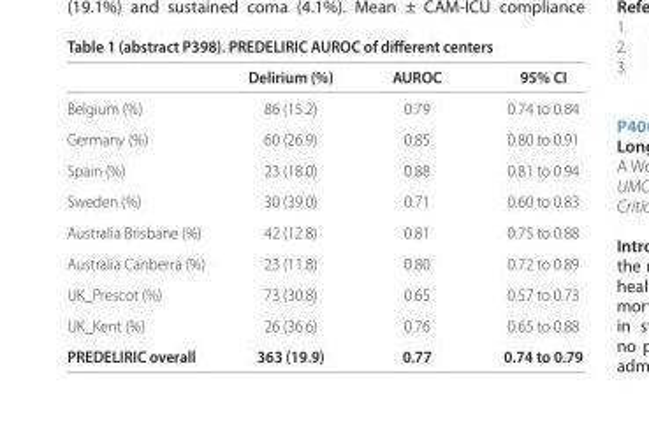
<table><thead><tr><td></td><td>Delirium (%)</td><td>AUROC</td><td>95% CI</td></tr></thead><tbody><tr><td>Belgium (%)</td><td>86 (15.2)</td><td>0.79</td><td>0.74 to 0.84</td></tr><tr><td>Germany (%)</td><td>60 (26.9)</td><td>0.85</td><td>0.80 to 0.91</td></tr><tr><td>Spain (%)</td><td>23 (18.0)</td><td>0.88</td><td>0.81 to 0.94</td></tr><tr><td>Sweden (%)</td><td>30 (39.0)</td><td>0.71</td><td>0.60 to 0.83</td></tr><tr><td>Australia Brisbane (%)</td><td>42 (12.8)</td><td>0.81</td><td>0.75 to 0.88</td></tr><tr><td>Australia Canberra (%)</td><td>23 (11.8)</td><td>0.80</td><td>0.72 to 0.89</td></tr><tr><td>UK_Prescot (%)</td><td>73 (30.8)</td><td>0.65</td><td>0.57 to 0.73</td></tr><tr><td>UK_Kent (%)</td><td>26 (36.6)</td><td>0.76</td><td>0.65 to 0.88</td></tr><tr><td>PREDELIRIC overall</td><td>363 (19.9)</td><td>0.77</td><td>0.74 to 0.79</td></tr></tbody></table>